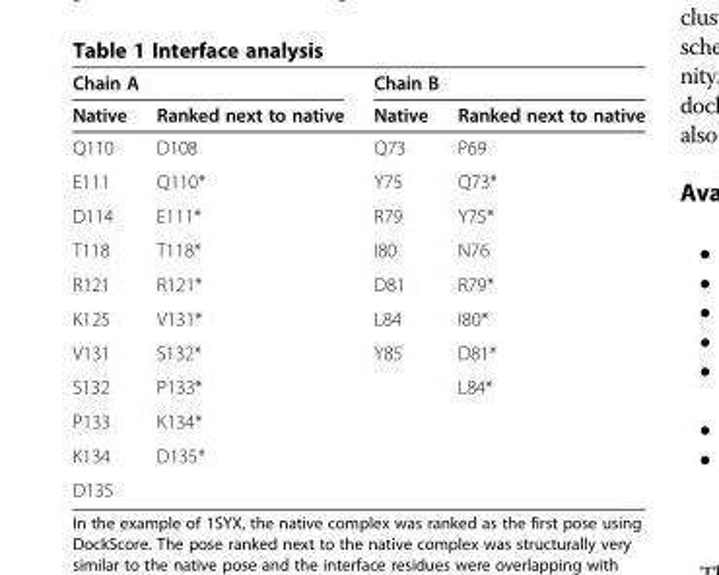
<table><thead><tr><td colspan="2">Chain A</td><td colspan="2">Chain B</td></tr><tr><td>Native</td><td>Ranked next to native</td><td>Native</td><td>Ranked next to native</td></tr></thead><tbody><tr><td>Q110</td><td>D108</td><td>Q73</td><td>P69</td></tr><tr><td>E111</td><td>Q110*</td><td>Y75</td><td>Q73*</td></tr><tr><td>D114</td><td>E111*</td><td>R79</td><td>Y75*</td></tr><tr><td>T118</td><td>T118*</td><td>I80</td><td>N76</td></tr><tr><td>R121</td><td>R121*</td><td>D81</td><td>R79*</td></tr><tr><td>K125</td><td>V131*</td><td>L84</td><td>I80*</td></tr><tr><td>V131</td><td>S132*</td><td>Y85</td><td>D81*</td></tr><tr><td>S132</td><td>P133*</td><td></td><td>L84*</td></tr><tr><td>P133</td><td>K134*</td><td></td><td></td></tr><tr><td>K134</td><td>D135*</td><td></td><td></td></tr><tr><td>D135</td><td></td><td></td><td></td></tr></tbody></table>